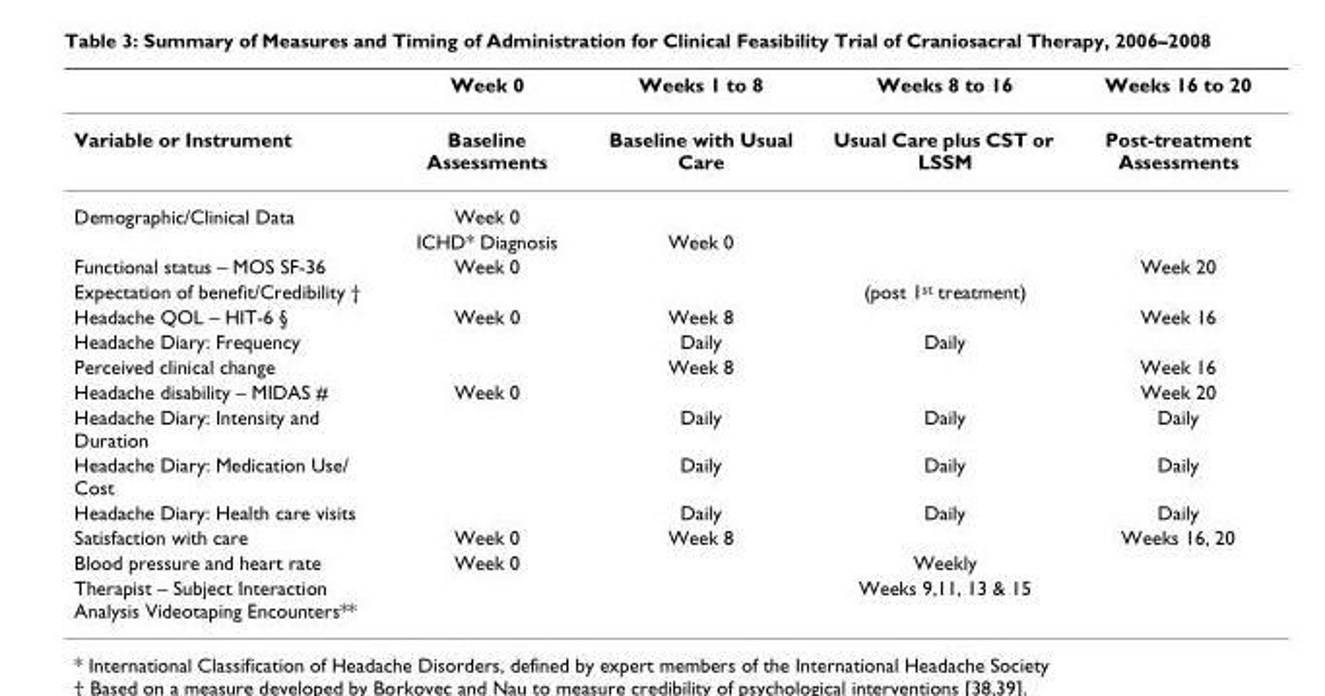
<table><thead><tr><td></td><td>Week 0</td><td>Weeks 1 to 8</td><td>Weeks 8 to 16</td><td>Weeks 16 to 20</td></tr></thead><tbody><tr><td>Variable or Instrument</td><td>Baseline Assessments</td><td>Baseline with Usual Care</td><td>Usual Care plus CST or LSSM</td><td>Post-treatment Assessments</td></tr><tr><td rowspan="2">Demographic/Clinical Data</td><td>Week 0</td><td></td><td></td><td></td></tr><tr><td>ICHD* Diagnosis</td><td>Week 0</td><td></td><td></td></tr><tr><td>Functional status – MOS SF-36</td><td>Week 0</td><td></td><td></td><td>Week 20</td></tr><tr><td>Expectation of benefit/Credibility †</td><td></td><td></td><td>(post 1<sup>st</sup> treatment)</td><td></td></tr><tr><td>Headache QOL – HIT-6 §</td><td>Week 0</td><td>Week 8</td><td></td><td>Week 16</td></tr><tr><td>Headache Diary: Frequency</td><td></td><td>Daily</td><td>Daily</td><td></td></tr><tr><td>Perceived clinical change</td><td></td><td>Week 8</td><td></td><td>Week 16</td></tr><tr><td>Headache disability – MIDAS #</td><td>Week 0</td><td></td><td></td><td>Week 20</td></tr><tr><td>Headache Diary: Intensity and Duration</td><td></td><td>Daily</td><td>Daily</td><td>Daily</td></tr><tr><td>Headache Diary: Medication Use/ Cost</td><td></td><td>Daily</td><td>Daily</td><td>Daily</td></tr><tr><td>Headache Diary: Health care visits</td><td></td><td>Daily</td><td>Daily</td><td>Daily</td></tr><tr><td>Satisfaction with care</td><td>Week 0</td><td>Week 8</td><td></td><td>Weeks 16, 20</td></tr><tr><td>Blood pressure and heart rate</td><td>Week 0</td><td></td><td>Weekly</td><td></td></tr><tr><td>Therapist – Subject Interaction Analysis Videotaping Encounters**</td><td></td><td></td><td>Weeks 9,11, 13 &amp; 15</td><td></td></tr></tbody></table>